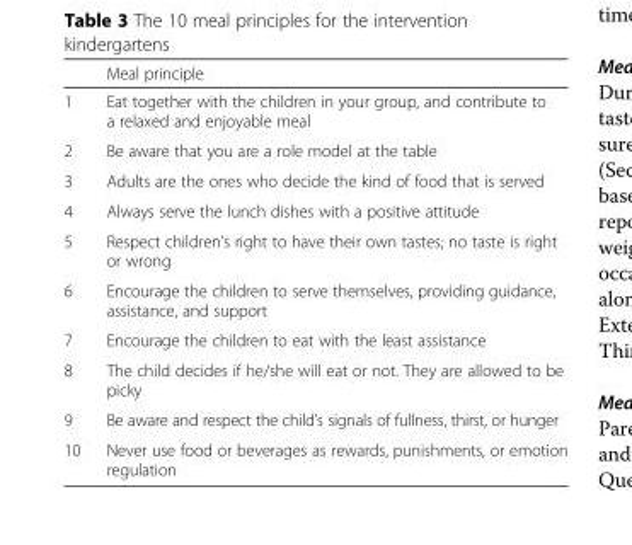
<table><thead><tr><td></td><td>Meal principle</td></tr></thead><tbody><tr><td>1</td><td>Eat together with the children in your group, and contribute to a relaxed and enjoyable meal</td></tr><tr><td>2</td><td>Be aware that you are a role model at the table</td></tr><tr><td>3</td><td>Adults are the ones who decide the kind of food that is served</td></tr><tr><td>4</td><td>Always serve the lunch dishes with a positive attitude</td></tr><tr><td>5</td><td>Respect children’s right to have their own tastes; no taste is right or wrong</td></tr><tr><td>6</td><td>Encourage the children to serve themselves, providing guidance, assistance, and support</td></tr><tr><td>7</td><td>Encourage the children to eat with the least assistance</td></tr><tr><td>8</td><td>The child decides if he/she will eat or not. They are allowed to be picky</td></tr><tr><td>9</td><td>Be aware and respect the child’s signals of fullness, thirst, or hunger</td></tr><tr><td>10</td><td>Never use food or beverages as rewards, punishments, or emotion regulation</td></tr></tbody></table>